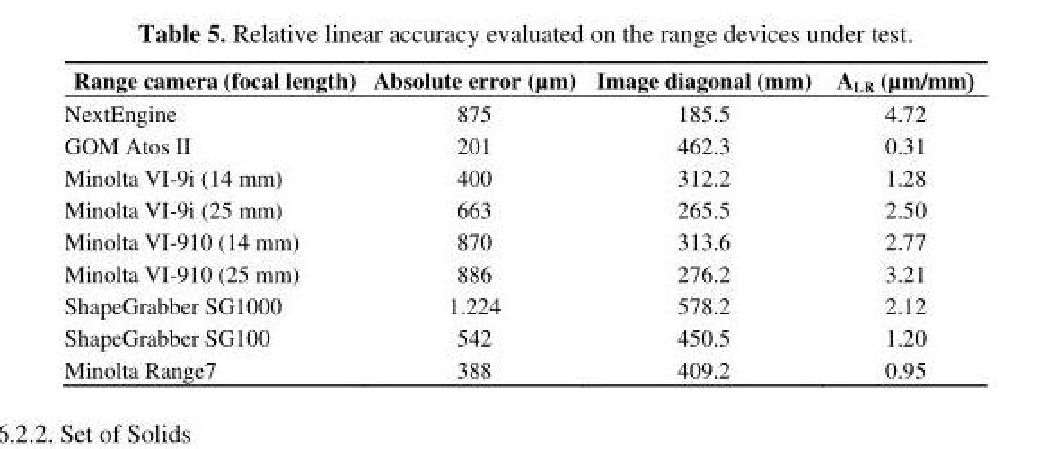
<table><thead><tr><td>Range camera (focal length)</td><td>Absolute error (µm)</td><td>Image diagonal (mm)</td><td>A<sub>LR</sub> (µm/mm)</td></tr></thead><tbody><tr><td>NextEngine</td><td>875</td><td>185.5</td><td>4.72</td></tr><tr><td>GOM Atos II</td><td>201</td><td>462.3</td><td>0.31</td></tr><tr><td>Minolta VI-9i (14 mm)</td><td>400</td><td>312.2</td><td>1.28</td></tr><tr><td>Minolta VI-9i (25 mm)</td><td>663</td><td>265.5</td><td>2.50</td></tr><tr><td>Minolta VI-910 (14 mm)</td><td>870</td><td>313.6</td><td>2.77</td></tr><tr><td>Minolta VI-910 (25 mm)</td><td>886</td><td>276.2</td><td>3.21</td></tr><tr><td>ShapeGrabber SG1000</td><td>1.224</td><td>578.2</td><td>2.12</td></tr><tr><td>ShapeGrabber SG100</td><td>542</td><td>450.5</td><td>1.20</td></tr><tr><td>Minolta Range7</td><td>388</td><td>409.2</td><td>0.95</td></tr></tbody></table>